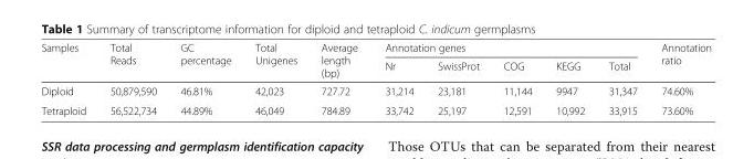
<table><thead><tr><td rowspan="2">Samples</td><td rowspan="2">Total Reads</td><td rowspan="2">GC percentage</td><td rowspan="2">Total Unigenes</td><td rowspan="2">Average length (bp)</td><td colspan="5">Annotation genes</td><td rowspan="2">Annotation ratio</td></tr><tr><td>Nr</td><td>SwissProt</td><td>COG</td><td>KEGG</td><td>Total</td></tr></thead><tbody><tr><td>Diploid</td><td>50,879,590</td><td>46.81%</td><td>42,023</td><td>727.72</td><td>31,214</td><td>23,181</td><td>11,144</td><td>9947</td><td>31,347</td><td>74.60%</td></tr><tr><td>Tetraploid</td><td>56,522,734</td><td>44.89%</td><td>46,049</td><td>784.89</td><td>33,742</td><td>25,197</td><td>12,591</td><td>10,992</td><td>33,915</td><td>73.60%</td></tr></tbody></table>